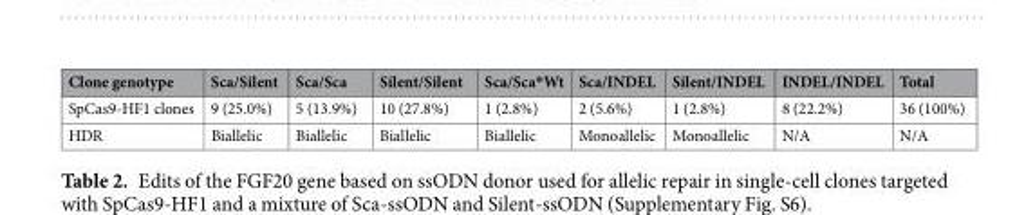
<table><thead><tr><td>Clone genotype</td><td>Sca/Silent</td><td>Sca/Sca</td><td>Silent/Silent</td><td>Sca/Sca*Wt</td><td>Sca/INDEL</td><td>Silent/INDEL</td><td>INDEL/INDEL</td><td>Total</td></tr></thead><tbody><tr><td>SpCas9-HF1 clones</td><td>9 (25.0%)</td><td>5 (13.9%)</td><td>10 (27.8%)</td><td>1 (2.8%)</td><td>2 (5.6%)</td><td>1 (2.8%)</td><td>8 (22.2%)</td><td>36 (100%)</td></tr><tr><td>HDR</td><td>Biallelic</td><td>Biallelic</td><td>Biallelic</td><td>Biallelic</td><td>Monoallelic</td><td>Monoallelic</td><td>N/A</td><td>N/A</td></tr></tbody></table>